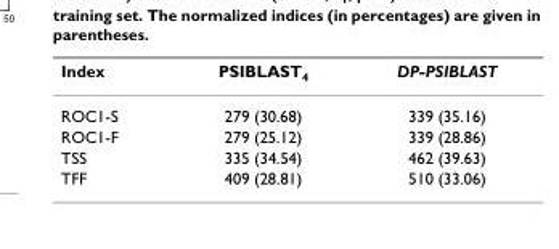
<table><thead><tr><td>Index</td><td>PSIBLAST<sub>4</sub></td><td>DP-PSIBLAST</td></tr></thead><tbody><tr><td>ROC1-S</td><td>279 (30.68)</td><td>339 (35.16)</td></tr><tr><td>ROC1-F</td><td>279 (25.12)</td><td>339 (28.86)</td></tr><tr><td>TSS</td><td>335 (34.54)</td><td>462 (39.63)</td></tr><tr><td>TFF</td><td>409 (28.81)</td><td>510 (33.06)</td></tr></tbody></table>